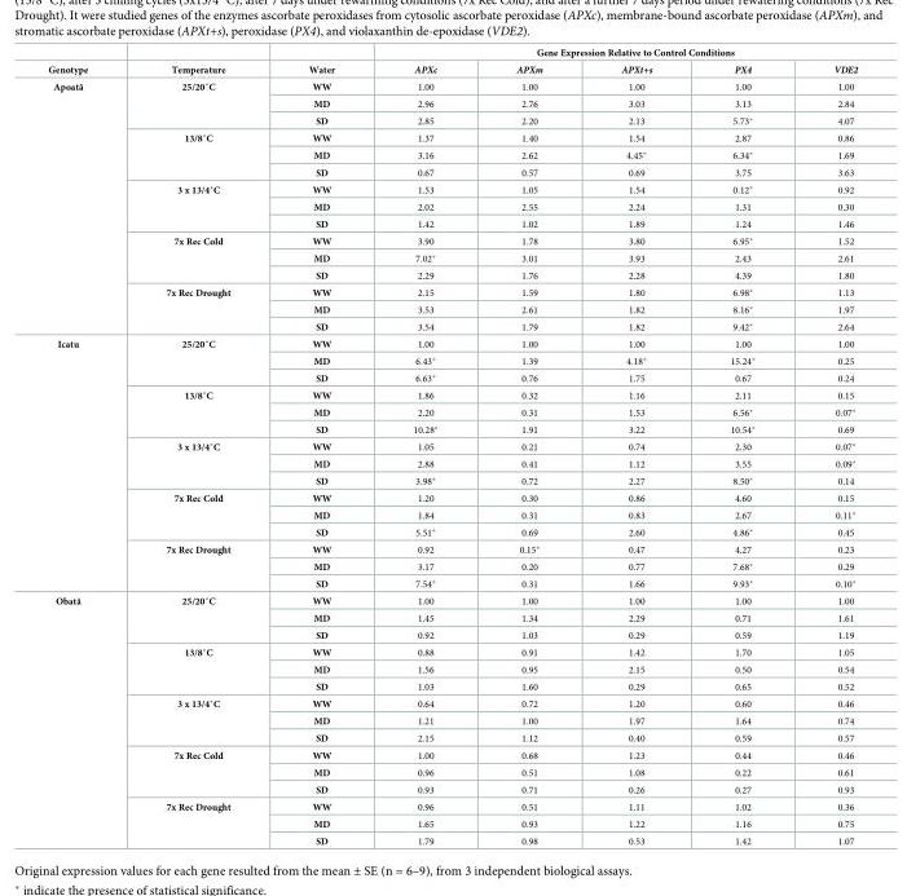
<table><thead><tr><td rowspan="2">Genotype</td><td rowspan="2">Temperature</td><td rowspan="2">Water</td><td colspan="5">Gene Expression Relative to Control Conditions</td></tr><tr><td>APXc</td><td>APXm</td><td>APXt+s</td><td>PX4</td><td>VDE2</td></tr></thead><tbody><tr><td rowspan="15">Apoatã</td><td rowspan="3">25/20˚C</td><td>WW</td><td>1.00</td><td>1.00</td><td>1.00</td><td>1.00</td><td>1.00</td></tr><tr><td>MD</td><td>2.96</td><td>2.76</td><td>3.03</td><td>3.13</td><td>2.84</td></tr><tr><td>SD</td><td>2.85</td><td>2.20</td><td>2.13</td><td>5.73*</td><td>4.07</td></tr><tr><td rowspan="3">13/8˚C</td><td>WW</td><td>1.37</td><td>1.40</td><td>1.54</td><td>2.87</td><td>0.86</td></tr><tr><td>MD</td><td>3.16</td><td>2.62</td><td>4.45*</td><td>6.34*</td><td>1.69</td></tr><tr><td>SD</td><td>0.67</td><td>0.57</td><td>0.69</td><td>3.75</td><td>3.63</td></tr><tr><td rowspan="3">3 x 13/4˚C</td><td>WW</td><td>1.53</td><td>1.05</td><td>1.54</td><td>0.12*</td><td>0.92</td></tr><tr><td>MD</td><td>2.02</td><td>2.55</td><td>2.24</td><td>1.31</td><td>0.30</td></tr><tr><td>SD</td><td>1.42</td><td>1.02</td><td>1.89</td><td>1.24</td><td>1.46</td></tr><tr><td rowspan="3">7x Rec Cold</td><td>WW</td><td>3.90</td><td>1.78</td><td>3.80</td><td>6.95*</td><td>1.52</td></tr><tr><td>MD</td><td>7.02*</td><td>3.01</td><td>3.93</td><td>2.43</td><td>2.61</td></tr><tr><td>SD</td><td>2.29</td><td>1.76</td><td>2.28</td><td>4.39</td><td>1.80</td></tr><tr><td rowspan="3">7x Rec Drought</td><td>WW</td><td>2.15</td><td>1.59</td><td>1.80</td><td>6.98*</td><td>1.13</td></tr><tr><td>MD</td><td>3.53</td><td>2.61</td><td>1.82</td><td>8.16*</td><td>1.97</td></tr><tr><td>SD</td><td>3.54</td><td>1.79</td><td>1.82</td><td>9.42*</td><td>2.64</td></tr><tr><td rowspan="15">Icatu</td><td rowspan="3">25/20˚C</td><td>WW</td><td>1.00</td><td>1.00</td><td>1.00</td><td>1.00</td><td>1.00</td></tr><tr><td>MD</td><td>6.43*</td><td>1.39</td><td>4.18*</td><td>15.24*</td><td>0.25</td></tr><tr><td>SD</td><td>6.63*</td><td>0.76</td><td>1.75</td><td>0.67</td><td>0.24</td></tr><tr><td rowspan="3">13/8˚C</td><td>WW</td><td>1.86</td><td>0.32</td><td>1.16</td><td>2.11</td><td>0.15</td></tr><tr><td>MD</td><td>2.20</td><td>0.31</td><td>1.53</td><td>6.56*</td><td>0.07*</td></tr><tr><td>SD</td><td>10.28*</td><td>1.91</td><td>3.22</td><td>10.54*</td><td>0.69</td></tr><tr><td rowspan="3">3 x 13/4˚C</td><td>WW</td><td>1.05</td><td>0.21</td><td>0.74</td><td>2.30</td><td>0.07*</td></tr><tr><td>MD</td><td>2.88</td><td>0.41</td><td>1.12</td><td>3.55</td><td>0.09*</td></tr><tr><td>SD</td><td>3.98*</td><td>0.72</td><td>2.27</td><td>8.50*</td><td>0.14</td></tr><tr><td rowspan="3">7x Rec Cold</td><td>WW</td><td>1.20</td><td>0.30</td><td>0.86</td><td>4.60</td><td>0.15</td></tr><tr><td>MD</td><td>1.84</td><td>0.31</td><td>0.83</td><td>2.67</td><td>0.11*</td></tr><tr><td>SD</td><td>5.51*</td><td>0.69</td><td>2.60</td><td>4.86*</td><td>0.45</td></tr><tr><td rowspan="3">7x Rec Drought</td><td>WW</td><td>0.92</td><td>0.15*</td><td>0.47</td><td>4.27</td><td>0.23</td></tr><tr><td>MD</td><td>3.17</td><td>0.20</td><td>0.77</td><td>7.68*</td><td>0.29</td></tr><tr><td>SD</td><td>7.54*</td><td>0.31</td><td>1.66</td><td>9.93*</td><td>0.10*</td></tr><tr><td rowspan="15">Obatã</td><td rowspan="3">25/20˚C</td><td>WW</td><td>1.00</td><td>1.00</td><td>1.00</td><td>1.00</td><td>1.00</td></tr><tr><td>MD</td><td>1.45</td><td>1.34</td><td>2.29</td><td>0.71</td><td>1.61</td></tr><tr><td>SD</td><td>0.92</td><td>1.03</td><td>0.29</td><td>0.59</td><td>1.19</td></tr><tr><td rowspan="3">13/8˚C</td><td>WW</td><td>0.88</td><td>0.91</td><td>1.42</td><td>1.70</td><td>1.05</td></tr><tr><td>MD</td><td>1.56</td><td>0.95</td><td>2.15</td><td>0.50</td><td>0.54</td></tr><tr><td>SD</td><td>1.03</td><td>1.60</td><td>0.29</td><td>0.65</td><td>0.52</td></tr><tr><td rowspan="3">3 x 13/4˚C</td><td>WW</td><td>0.64</td><td>0.72</td><td>1.20</td><td>0.60</td><td>0.46</td></tr><tr><td>MD</td><td>1.21</td><td>1.00</td><td>1.97</td><td>1.64</td><td>0.74</td></tr><tr><td>SD</td><td>2.15</td><td>1.12</td><td>0.40</td><td>0.59</td><td>0.57</td></tr><tr><td rowspan="3">7x Rec Cold</td><td>WW</td><td>1.00</td><td>0.68</td><td>1.23</td><td>0.44</td><td>0.46</td></tr><tr><td>MD</td><td>0.96</td><td>0.51</td><td>1.08</td><td>0.22</td><td>0.61</td></tr><tr><td>SD</td><td>0.93</td><td>0.71</td><td>0.26</td><td>0.27</td><td>0.93</td></tr><tr><td rowspan="3">7x Rec Drought</td><td>WW</td><td>0.96</td><td>0.51</td><td>1.11</td><td>1.02</td><td>0.36</td></tr><tr><td>MD</td><td>1.65</td><td>0.93</td><td>1.22</td><td>1.16</td><td>0.75</td></tr><tr><td>SD</td><td>1.79</td><td>0.98</td><td>0.53</td><td>1.42</td><td>1.07</td></tr></tbody></table>